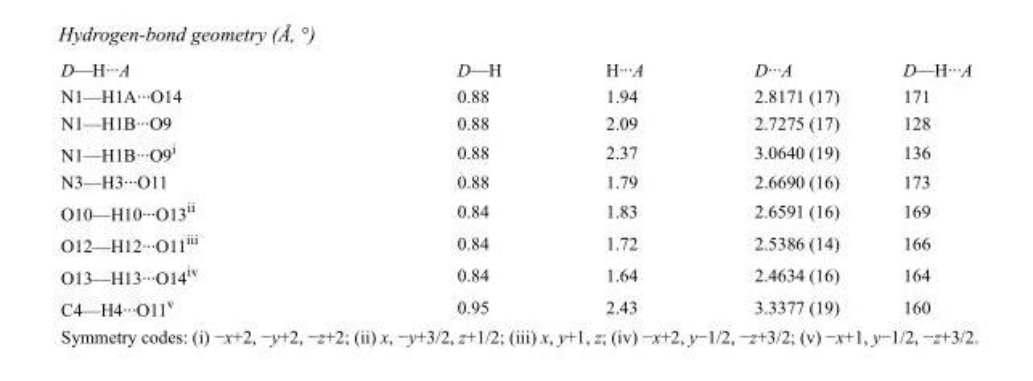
<table><tbody><tr><td>D—H···A</td><td>D—H</td><td>H···A</td><td>D···A</td><td>D—H···A</td></tr><tr><td>N1—H1A···O14</td><td>0.88</td><td>1.94</td><td>2.8171 (17)</td><td>171</td></tr><tr><td>N1—H1B···O9</td><td>0.88</td><td>2.09</td><td>2.7275 (17)</td><td>128</td></tr><tr><td>N1—H1B···O9<sup>i</sup></td><td>0.88</td><td>2.37</td><td>3.0640 (19)</td><td>136</td></tr><tr><td>N3—H3···O11</td><td>0.88</td><td>1.79</td><td>2.6690 (16)</td><td>173</td></tr><tr><td>O10—H10···O13<sup>ii</sup></td><td>0.84</td><td>1.83</td><td>2.6591 (16)</td><td>169</td></tr><tr><td>O12—H12···O11<sup>iii</sup></td><td>0.84</td><td>1.72</td><td>2.5386 (14)</td><td>166</td></tr><tr><td>O13—H13···O14<sup>iv</sup></td><td>0.84</td><td>1.64</td><td>2.4634 (16)</td><td>164</td></tr><tr><td>C4—H4···O11<sup>v</sup></td><td>0.95</td><td>2.43</td><td>3.3377 (19)</td><td>160</td></tr></tbody></table>